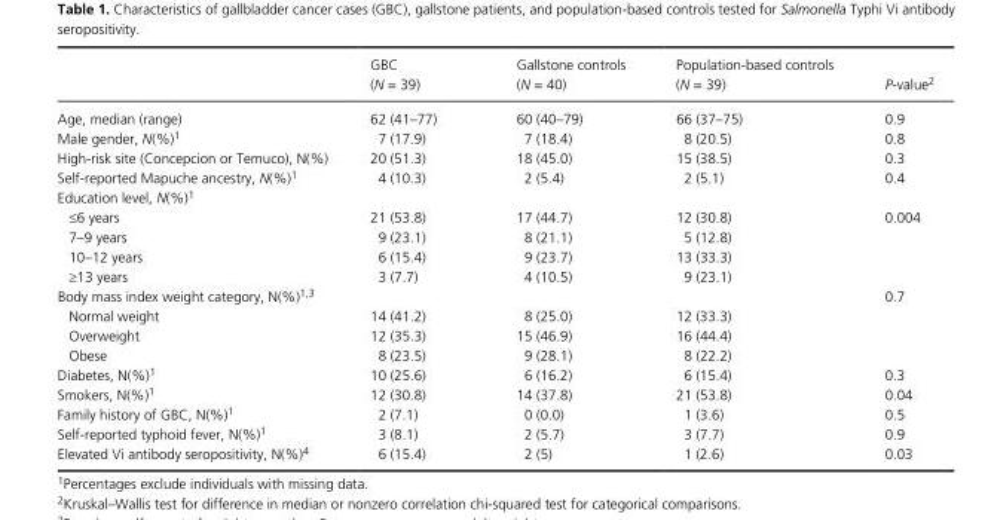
<table><thead><tr><td></td><td>GBC (N = 39)</td><td>Gallstone controls (N = 40)</td><td>Population- based controls (N = 39)</td><td>P- value2</td></tr></thead><tbody><tr><td>Age, median (range)</td><td>62 (41–77)</td><td>60 (40–79)</td><td>66 (37–75)</td><td>0.9</td></tr><tr><td>Male gender, N(%)1</td><td>7 (17.9)</td><td>7 (18.4)</td><td>8 (20.5)</td><td>0.8</td></tr><tr><td>High- risk site (Concepcion or Temuco), N(%)</td><td>20 (51.3)</td><td>18 (45.0)</td><td>15 (38.5)</td><td>0.3</td></tr><tr><td>Self- reported Mapuche ancestry, N(%)1</td><td>4 (10.3)</td><td>2 (5.4)</td><td>2 (5.1)</td><td>0.4</td></tr><tr><td colspan="5">Education level, N(%)1</td></tr><tr><td>≤6 years</td><td>21 (53.8)</td><td>17 (44.7)</td><td>12 (30.8)</td><td>0.004</td></tr><tr><td>7–9 years</td><td>9 (23.1)</td><td>8 (21.1)</td><td>5 (12.8)</td><td></td></tr><tr><td>10–12 years</td><td>6 (15.4)</td><td>9 (23.7)</td><td>13 (33.3)</td><td></td></tr><tr><td>≥13 years</td><td>3 (7.7)</td><td>4 (10.5)</td><td>9 (23.1)</td><td></td></tr><tr><td>Body mass index weight category, N(%)1,3</td><td></td><td></td><td></td><td>0.7</td></tr><tr><td>Normal weight</td><td>14 (41.2)</td><td>8 (25.0)</td><td>12 (33.3)</td><td></td></tr><tr><td>Overweight</td><td>12 (35.3)</td><td>15 (46.9)</td><td>16 (44.4)</td><td></td></tr><tr><td>Obese</td><td>8 (23.5)</td><td>9 (28.1)</td><td>8 (22.2)</td><td></td></tr><tr><td>Diabetes, N(%)1</td><td>10 (25.6)</td><td>6 (16.2)</td><td>6 (15.4)</td><td>0.3</td></tr><tr><td>Smokers, N(%)1</td><td>12 (30.8)</td><td>14 (37.8)</td><td>21 (53.8)</td><td>0.04</td></tr><tr><td>Family history of GBC, N(%)1</td><td>2 (7.1)</td><td>0 (0.0)</td><td>1 (3.6)</td><td>0.5</td></tr><tr><td>Self- reported typhoid fever, N(%)1</td><td>3 (8.1)</td><td>2 (5.7)</td><td>3 (7.7)</td><td>0.9</td></tr><tr><td>Elevated Vi antibody seropositivity, N(%)4</td><td>6 (15.4)</td><td>2 (5)</td><td>1 (2.6)</td><td>0.03</td></tr></tbody></table>